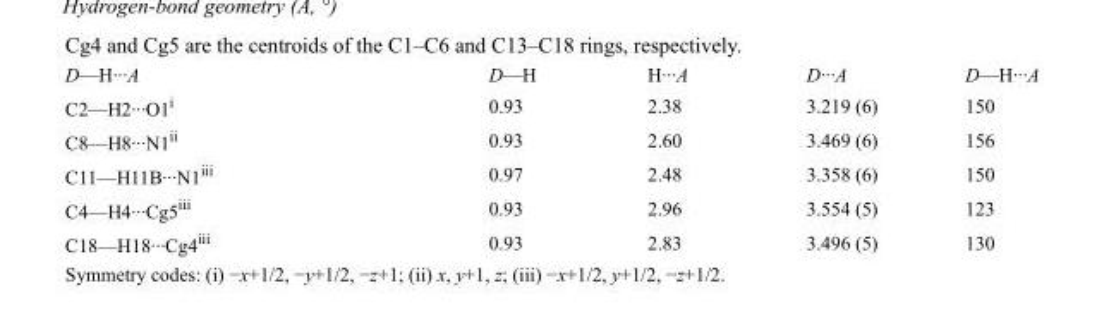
<table><tbody><tr><td>D—H···A</td><td>D—H</td><td>H···A</td><td>D···A</td><td>D—H···A</td></tr><tr><td>C2—H2···O1<sup>i</sup></td><td>0.93</td><td>2.38</td><td>3.219 (6)</td><td>150</td></tr><tr><td>C8—H8···N1<sup>ii</sup></td><td>0.93</td><td>2.60</td><td>3.469 (6)</td><td>156</td></tr><tr><td>C11—H11B···N1<sup>iii</sup></td><td>0.97</td><td>2.48</td><td>3.358 (6)</td><td>150</td></tr><tr><td>C4—H4···Cg5<sup>iii</sup></td><td>0.93</td><td>2.96</td><td>3.554 (5)</td><td>123</td></tr><tr><td>C18—H18···Cg4<sup>iii</sup></td><td>0.93</td><td>2.83</td><td>3.496 (5)</td><td>130</td></tr></tbody></table>